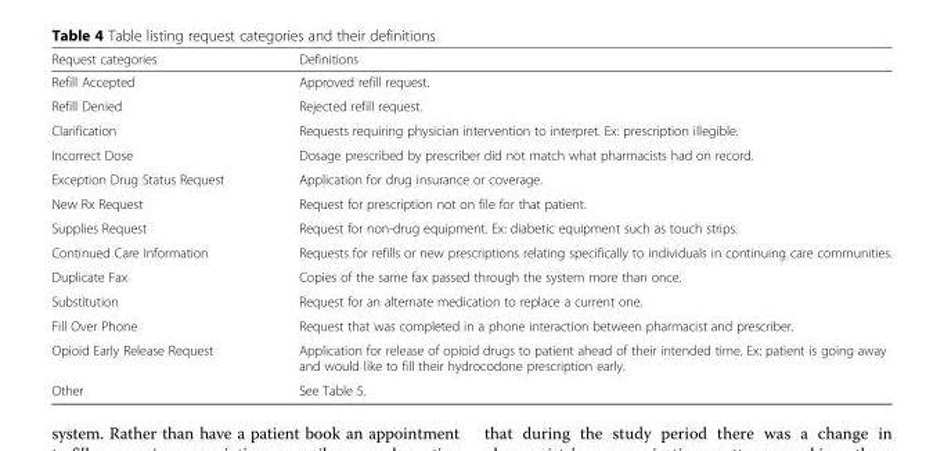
<table><thead><tr><td>Request categories</td><td>Definitions</td></tr></thead><tbody><tr><td>Refill Accepted</td><td>Approved refill request.</td></tr><tr><td>Refill Denied</td><td>Rejected refill request.</td></tr><tr><td>Clarification</td><td>Requests requiring physician intervention to interpret. Ex: prescription illegible.</td></tr><tr><td>Incorrect Dose</td><td>Dosage prescribed by prescriber did not match what pharmacists had on record.</td></tr><tr><td>Exception Drug Status Request</td><td>Application for drug insurance or coverage.</td></tr><tr><td>New Rx Request</td><td>Request for prescription not on file for that patient.</td></tr><tr><td>Supplies Request</td><td>Request for non-drug equipment. Ex: diabetic equipment such as touch strips.</td></tr><tr><td>Continued Care Information</td><td>Requests for refills or new prescriptions relating specifically to individuals in continuing care communities.</td></tr><tr><td>Duplicate Fax</td><td>Copies of the same fax passed through the system more than once.</td></tr><tr><td>Substitution</td><td>Request for an alternate medication to replace a current one.</td></tr><tr><td>Fill Over Phone</td><td>Request that was completed in a phone interaction between pharmacist and prescriber.</td></tr><tr><td>Opioid Early Release Request</td><td>Application for release of opioid drugs to patient ahead of their intended time. Ex: patient is going away and would like to fill their hydrocodone prescription early.</td></tr><tr><td>Other</td><td>See Table 5.</td></tr></tbody></table>